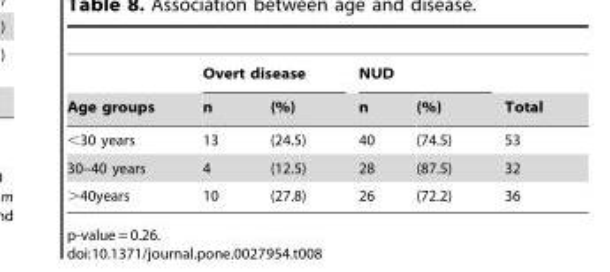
<table><thead><tr><td rowspan="2">Age groups</td><td colspan="2">Overt disease</td><td colspan="2">NUD</td><td rowspan="2">Total</td></tr><tr><td>n</td><td>(%)</td><td>n</td><td>(%)</td></tr></thead><tbody><tr><td>&lt;30 years</td><td>13</td><td>(24.5)</td><td>40</td><td>(74.5)</td><td>53</td></tr><tr><td>30–40 years</td><td>4</td><td>(12.5)</td><td>28</td><td>(87.5)</td><td>32</td></tr><tr><td>&gt;40years</td><td>10</td><td>(27.8)</td><td>26</td><td>(72.2)</td><td>36</td></tr></tbody></table>